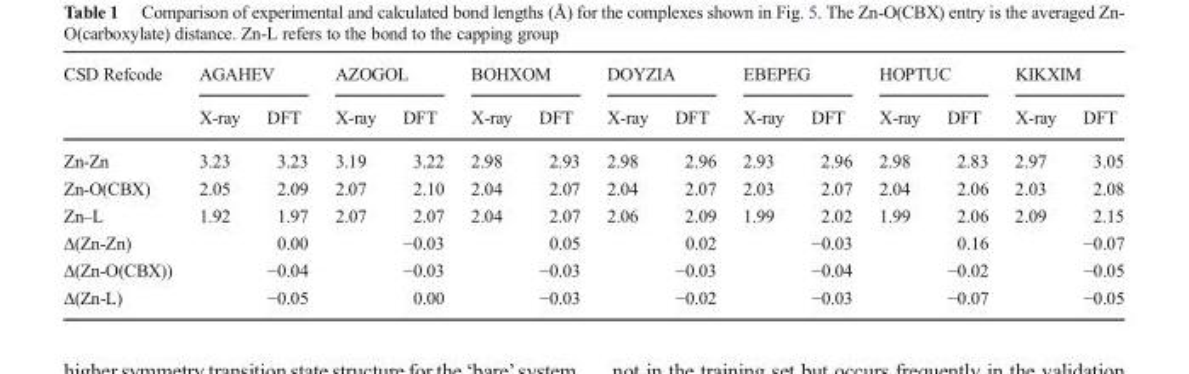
<table><thead><tr><td rowspan="2">CSD Refcode</td><td colspan="2">AGAHEV</td><td colspan="2">AZOGOL</td><td colspan="2">BOHXOM</td><td colspan="2">DOYZIA</td><td colspan="2">EBEPEG</td><td colspan="2">HOPTUC</td><td colspan="2">KIKXIM</td></tr><tr><td>X-ray</td><td>DFT</td><td>X-ray</td><td>DFT</td><td>X-ray</td><td>DFT</td><td>X-ray</td><td>DFT</td><td>X-ray</td><td>DFT</td><td>X-ray</td><td>DFT</td><td>X-ray</td><td>DFT</td></tr></thead><tbody><tr><td>Zn-Zn</td><td>3.23</td><td>3.23</td><td>3.19</td><td>3.22</td><td>2.98</td><td>2.93</td><td>2.98</td><td>2.96</td><td>2.93</td><td>2.96</td><td>2.98</td><td>2.83</td><td>2.97</td><td>3.05</td></tr><tr><td>Zn-O(CBX)</td><td>2.05</td><td>2.09</td><td>2.07</td><td>2.10</td><td>2.04</td><td>2.07</td><td>2.04</td><td>2.07</td><td>2.03</td><td>2.07</td><td>2.04</td><td>2.06</td><td>2.03</td><td>2.08</td></tr><tr><td>Zn–L</td><td>1.92</td><td>1.97</td><td>2.07</td><td>2.07</td><td>2.04</td><td>2.07</td><td>2.06</td><td>2.09</td><td>1.99</td><td>2.02</td><td>1.99</td><td>2.06</td><td>2.09</td><td>2.15</td></tr><tr><td>Δ(Zn-Zn)</td><td></td><td>0.00</td><td></td><td>−0.03</td><td></td><td>0.05</td><td></td><td>0.02</td><td></td><td>−0.03</td><td></td><td>0.16</td><td></td><td>−0.07</td></tr><tr><td>Δ(Zn-O(CBX))</td><td></td><td>−0.04</td><td></td><td>−0.03</td><td></td><td>−0.03</td><td></td><td>−0.03</td><td></td><td>−0.04</td><td></td><td>−0.02</td><td></td><td>−0.05</td></tr><tr><td>Δ(Zn-L)</td><td></td><td>−0.05</td><td></td><td>0.00</td><td></td><td>−0.03</td><td></td><td>−0.02</td><td></td><td>−0.03</td><td></td><td>−0.07</td><td></td><td>−0.05</td></tr></tbody></table>